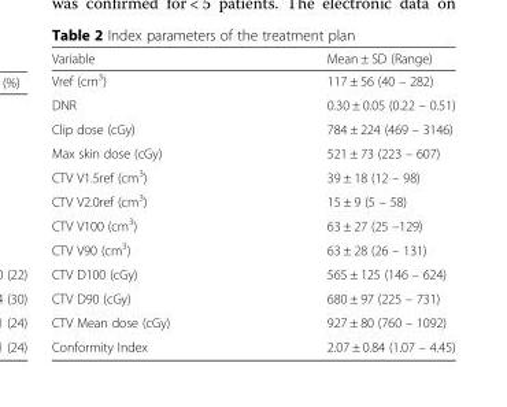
<table><thead><tr><td>Variable</td><td>Mean ± SD (Range)</td></tr></thead><tbody><tr><td>Vref (cm<sup>3</sup>)</td><td>117 ± 56 (40 – 282)</td></tr><tr><td>DNR</td><td>0.30 ± 0.05 (0.22 – 0.51)</td></tr><tr><td>Clip dose (cGy)</td><td>784 ± 224 (469 – 3146)</td></tr><tr><td>Max skin dose (cGy)</td><td>521 ± 73 (223 – 607)</td></tr><tr><td>CTV V1.5ref (cm<sup>3</sup>)</td><td>39 ± 18 (12 – 98)</td></tr><tr><td>CTV V2.0ref (cm<sup>3</sup>)</td><td>15 ± 9 (5 – 58)</td></tr><tr><td>CTV V100 (cm<sup>3</sup>)</td><td>63 ± 27 (25 –129)</td></tr><tr><td>CTV V90 (cm<sup>3</sup>)</td><td>63 ± 28 (26 – 131)</td></tr><tr><td>CTV D100 (cGy)</td><td>565 ± 125 (146 – 624)</td></tr><tr><td>CTV D90 (cGy)</td><td>680 ± 97 (225 – 731)</td></tr><tr><td>CTV Mean dose (cGy)</td><td>927 ± 80 (760 – 1092)</td></tr><tr><td>Conformity Index</td><td>2.07 ± 0.84 (1.07 – 4.45)</td></tr></tbody></table>